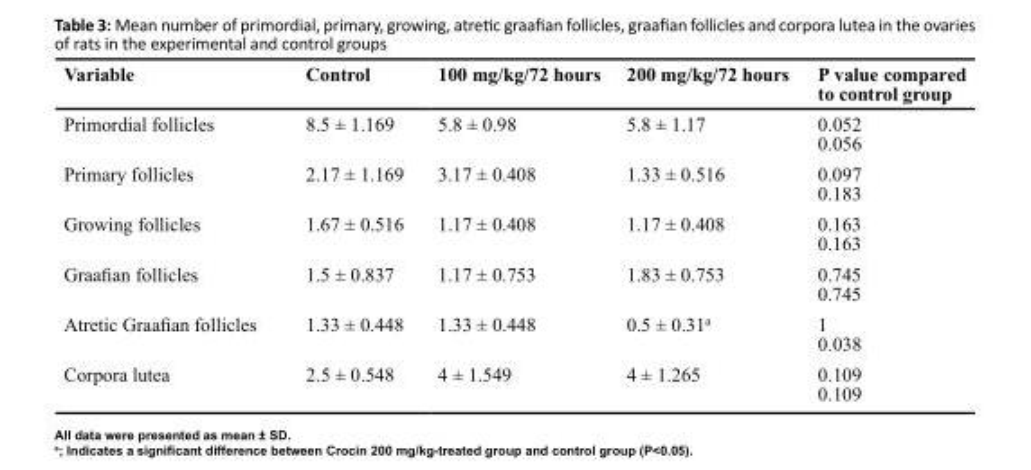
<table><thead><tr><td>Variable</td><td>Control</td><td>100 mg/kg/72 hours</td><td>200 mg/kg/72 hours</td><td>P value compared to control group</td></tr></thead><tbody><tr><td>Primordial follicles</td><td>8.5 ± 1.169</td><td>5.8 ± 0.98</td><td>5.8 ± 1.17</td><td>0.052 0.056</td></tr><tr><td>Primary follicles</td><td>2.17 ± 1.169</td><td>3.17 ± 0.408</td><td>1.33 ± 0.516</td><td>0.097 0.183</td></tr><tr><td>Growing follicles</td><td>1.67 ± 0.516</td><td>1.17 ± 0.408</td><td>1.17 ± 0.408</td><td>0.163 0.163</td></tr><tr><td>Graafian follicles</td><td>1.5 ± 0.837</td><td>1.17 ± 0.753</td><td>1.83 ± 0.753</td><td>0.745 0.745</td></tr><tr><td>Atretic Graafian follicles</td><td>1.33 ± 0.448</td><td>1.33 ± 0.448</td><td>0.5 ± 0.31<sup>a</sup></td><td>1 0.038</td></tr><tr><td>Corpora lutea</td><td>2.5 ± 0.548</td><td>4 ± 1.549</td><td>4 ± 1.265</td><td>0.109 0.109</td></tr></tbody></table>